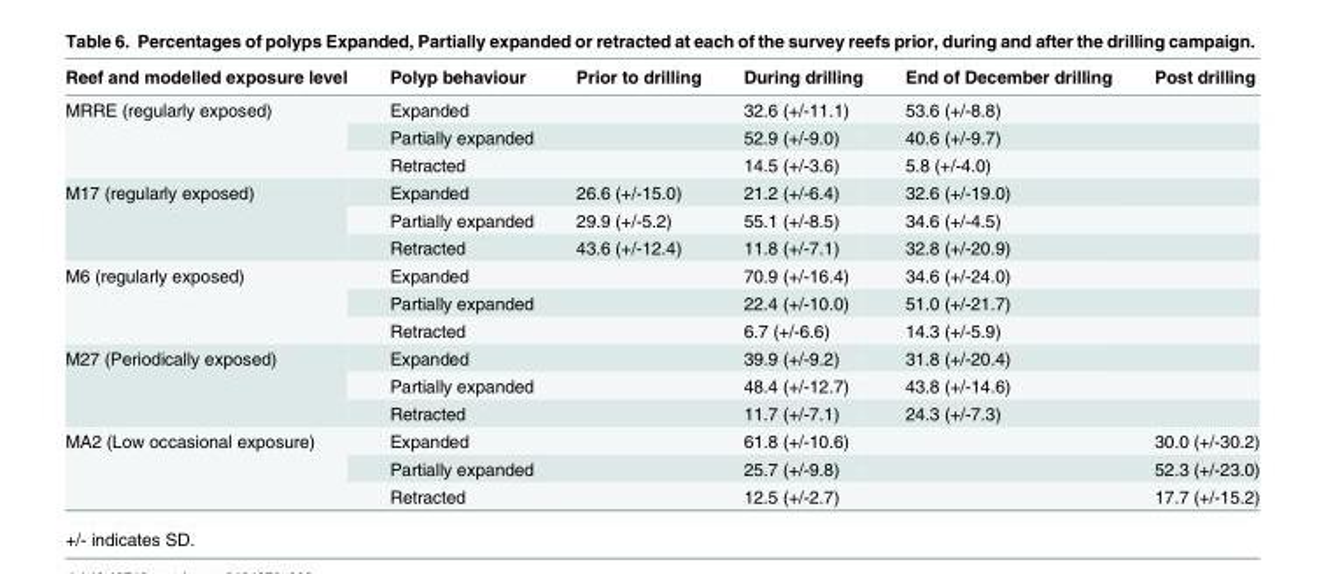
<table><thead><tr><td>Reef and modelled exposure level</td><td>Polyp behaviour</td><td>Prior to drilling</td><td>During drilling</td><td>End of December drilling</td><td>Post drilling</td></tr></thead><tbody><tr><td rowspan="3">MRRE (regularly exposed)</td><td>Expanded</td><td></td><td>32.6 (+/-11.1)</td><td>53.6 (+/-8.8)</td><td></td></tr><tr><td>Partially expanded</td><td></td><td>52.9 (+/-9.0)</td><td>40.6 (+/-9.7)</td><td></td></tr><tr><td>Retracted</td><td></td><td>14.5 (+/-3.6)</td><td>5.8 (+/-4.0)</td><td></td></tr><tr><td rowspan="3">M17 (regularly exposed)</td><td>Expanded</td><td>26.6 (+/-15.0)</td><td>21.2 (+/-6.4)</td><td>32.6 (+/-19.0)</td><td></td></tr><tr><td>Partially expanded</td><td>29.9 (+/-5.2)</td><td>55.1 (+/-8.5)</td><td>34.6 (+/-4.5)</td><td></td></tr><tr><td>Retracted</td><td>43.6 (+/-12.4)</td><td>11.8 (+/-7.1)</td><td>32.8 (+/-20.9)</td><td></td></tr><tr><td rowspan="3">M6 (regularly exposed)</td><td>Expanded</td><td></td><td>70.9 (+/-16.4)</td><td>34.6 (+/-24.0)</td><td></td></tr><tr><td>Partially expanded</td><td></td><td>22.4 (+/-10.0)</td><td>51.0 (+/-21.7)</td><td></td></tr><tr><td>Retracted</td><td></td><td>6.7 (+/-6.6)</td><td>14.3 (+/-5.9)</td><td></td></tr><tr><td rowspan="3">M27 (Periodically exposed)</td><td>Expanded</td><td></td><td>39.9 (+/-9.2)</td><td>31.8 (+/-20.4)</td><td></td></tr><tr><td>Partially expanded</td><td></td><td>48.4 (+/-12.7)</td><td>43.8 (+/-14.6)</td><td></td></tr><tr><td>Retracted</td><td></td><td>11.7 (+/-7.1)</td><td>24.3 (+/-7.3)</td><td></td></tr><tr><td rowspan="3">MA2 (Low occasional exposure)</td><td>Expanded</td><td></td><td>61.8 (+/-10.6)</td><td></td><td>30.0 (+/-30.2)</td></tr><tr><td>Partially expanded</td><td></td><td>25.7 (+/-9.8)</td><td></td><td>52.3 (+/-23.0)</td></tr><tr><td>Retracted</td><td></td><td>12.5 (+/-2.7)</td><td></td><td>17.7 (+/-15.2)</td></tr></tbody></table>